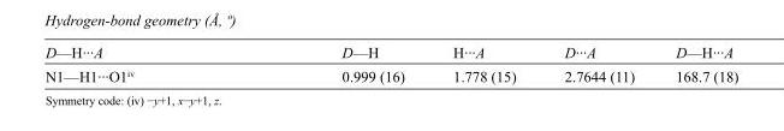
<table><tbody><tr><td>D—H···A</td><td>D—H</td><td>H···A</td><td>D···A</td><td>D—H···A</td></tr><tr><td>N1—H1···O1<sup>iv</sup></td><td>0.999 (16)</td><td>1.778 (15)</td><td>2.7644 (11)</td><td>168.7 (18)</td></tr></tbody></table>